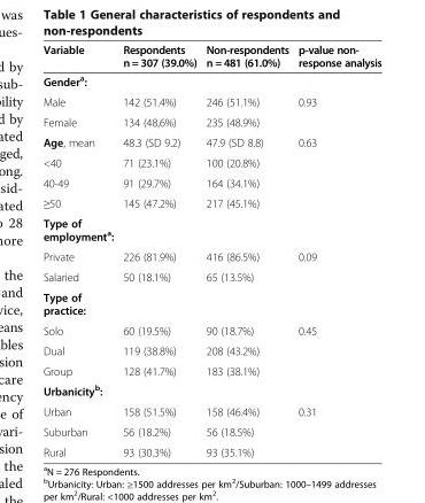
<table><thead><tr><td>Variable</td><td>Respondents n = 307 (39.0%)</td><td>Non-respondents n = 481 (61.0%)</td><td>p-value non- response analysis</td></tr></thead><tbody><tr><td colspan="4">Gender<sup>a</sup>:</td></tr><tr><td>Male</td><td>142 (51.4%)</td><td>246 (51.1%)</td><td>0.93</td></tr><tr><td>Female</td><td>134 (48,6%)</td><td>235 (48.9%)</td><td></td></tr><tr><td>Age, mean</td><td>48.3 (SD 9.2)</td><td>47.9 (SD 8.8)</td><td>0.63</td></tr><tr><td>&lt;40</td><td>71 (23.1%)</td><td>100 (20.8%)</td><td></td></tr><tr><td>40-49</td><td>91 (29.7%)</td><td>164 (34.1%)</td><td></td></tr><tr><td>≥50</td><td>145 (47.2%)</td><td>217 (45.1%)</td><td></td></tr><tr><td colspan="4">Type of employment<sup>a</sup>:</td></tr><tr><td>Private</td><td>226 (81.9%)</td><td>416 (86.5%)</td><td>0.09</td></tr><tr><td>Salaried</td><td>50 (18.1%)</td><td>65 (13.5%)</td><td></td></tr><tr><td colspan="4">Type of practice:</td></tr><tr><td>Solo</td><td>60 (19.5%)</td><td>90 (18.7%)</td><td>0.45</td></tr><tr><td>Dual</td><td>119 (38.8%)</td><td>208 (43.2%)</td><td></td></tr><tr><td>Group</td><td>128 (41.7%)</td><td>183 (38.1%)</td><td></td></tr><tr><td colspan="4">Urbanicity<sup>b</sup>:</td></tr><tr><td>Urban</td><td>158 (51.5%)</td><td>158 (46.4%)</td><td>0.31</td></tr><tr><td>Suburban</td><td>56 (18.2%)</td><td>56 (18.5%)</td><td></td></tr><tr><td>Rural</td><td>93 (30.3%)</td><td>93 (35.1%)</td><td></td></tr></tbody></table>